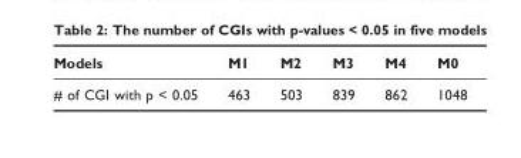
<table><thead><tr><td>Models</td><td>M1</td><td>M2</td><td>M3</td><td>M4</td><td>M0</td></tr></thead><tbody><tr><td># of CGI with p &lt; 0.05</td><td>463</td><td>503</td><td>839</td><td>862</td><td>1048</td></tr></tbody></table>